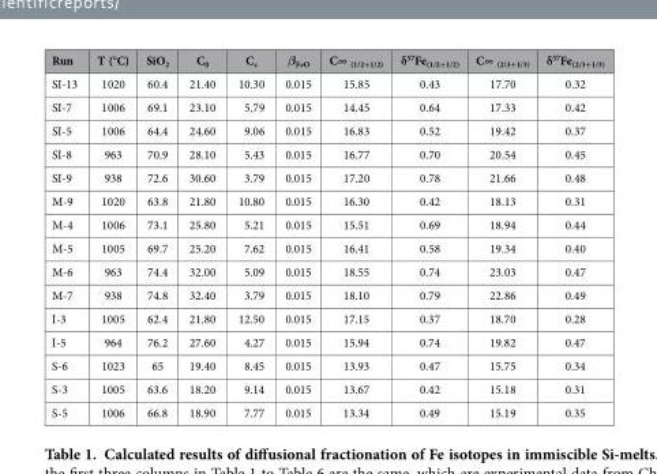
<table><thead><tr><td>Run</td><td>T (°C)</td><td>SiO<sub>2</sub></td><td>C<sub>0</sub></td><td>C<sub>c</sub></td><td>β<sub>FeO</sub></td><td>C∞ <sub>(1/2+1/2)</sub></td><td>δ<sup>57</sup>Fe<sub>(1/2+1/2)</sub></td><td>C∞ <sub>(2/3+1/3)</sub></td><td>δ<sup>57</sup>Fe<sub>(2/3+1/3)</sub></td></tr></thead><tbody><tr><td>SI-13</td><td>1020</td><td>60.4</td><td>21.40</td><td>10.30</td><td>0.015</td><td>15.85</td><td>0.43</td><td>17.70</td><td>0.32</td></tr><tr><td>SI-7</td><td>1006</td><td>69.1</td><td>23.10</td><td>5.79</td><td>0.015</td><td>14.45</td><td>0.64</td><td>17.33</td><td>0.42</td></tr><tr><td>SI-5</td><td>1006</td><td>64.4</td><td>24.60</td><td>9.06</td><td>0.015</td><td>16.83</td><td>0.52</td><td>19.42</td><td>0.37</td></tr><tr><td>SI-8</td><td>963</td><td>70.9</td><td>28.10</td><td>5.43</td><td>0.015</td><td>16.77</td><td>0.70</td><td>20.54</td><td>0.45</td></tr><tr><td>SI-9</td><td>938</td><td>72.6</td><td>30.60</td><td>3.79</td><td>0.015</td><td>17.20</td><td>0.78</td><td>21.66</td><td>0.48</td></tr><tr><td>M-9</td><td>1020</td><td>63.8</td><td>21.80</td><td>10.80</td><td>0.015</td><td>16.30</td><td>0.42</td><td>18.13</td><td>0.31</td></tr><tr><td>M-4</td><td>1006</td><td>73.1</td><td>25.80</td><td>5.21</td><td>0.015</td><td>15.51</td><td>0.69</td><td>18.94</td><td>0.44</td></tr><tr><td>M-5</td><td>1005</td><td>69.7</td><td>25.20</td><td>7.62</td><td>0.015</td><td>16.41</td><td>0.58</td><td>19.34</td><td>0.40</td></tr><tr><td>M-6</td><td>963</td><td>74.4</td><td>32.00</td><td>5.09</td><td>0.015</td><td>18.55</td><td>0.74</td><td>23.03</td><td>0.47</td></tr><tr><td>M-7</td><td>938</td><td>74.8</td><td>32.40</td><td>3.79</td><td>0.015</td><td>18.10</td><td>0.79</td><td>22.86</td><td>0.49</td></tr><tr><td>I-3</td><td>1005</td><td>62.4</td><td>21.80</td><td>12.50</td><td>0.015</td><td>17.15</td><td>0.37</td><td>18.70</td><td>0.28</td></tr><tr><td>I-5</td><td>964</td><td>76.2</td><td>27.60</td><td>4.27</td><td>0.015</td><td>15.94</td><td>0.74</td><td>19.82</td><td>0.47</td></tr><tr><td>S-6</td><td>1023</td><td>65</td><td>19.40</td><td>8.45</td><td>0.015</td><td>13.93</td><td>0.47</td><td>15.75</td><td>0.34</td></tr><tr><td>S-3</td><td>1005</td><td>63.6</td><td>18.20</td><td>9.14</td><td>0.015</td><td>13.67</td><td>0.42</td><td>15.18</td><td>0.31</td></tr><tr><td>S-5</td><td>1006</td><td>66.8</td><td>18.90</td><td>7.77</td><td>0.015</td><td>13.34</td><td>0.49</td><td>15.19</td><td>0.35</td></tr></tbody></table>